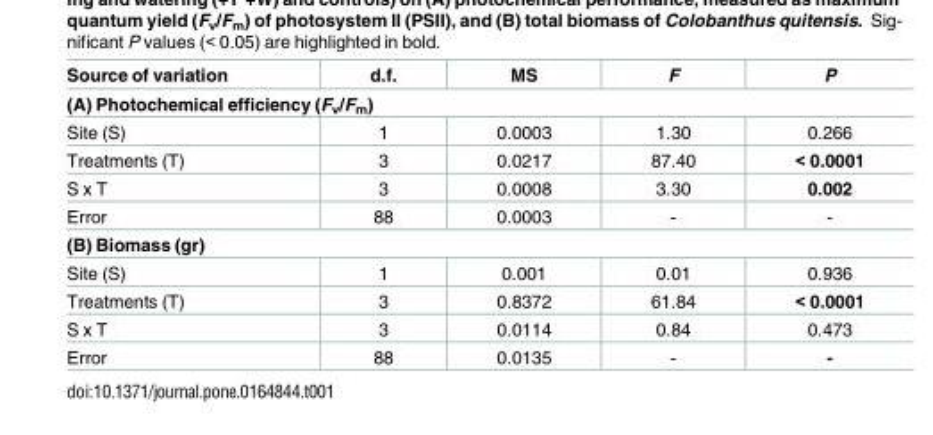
<table><thead><tr><td>Source of variation</td><td>d.f.</td><td>MS</td><td>F</td><td>P</td></tr></thead><tbody><tr><td colspan="5">(A) Photochemical efficiency (F<sub>v</sub>/F<sub>m</sub>)</td></tr><tr><td>Site (S)</td><td>1</td><td>0.0003</td><td>1.30</td><td>0.266</td></tr><tr><td>Treatments (T)</td><td>3</td><td>0.0217</td><td>87.40</td><td>&lt; 0.0001</td></tr><tr><td>S x T</td><td>3</td><td>0.0008</td><td>3.30</td><td>0.002</td></tr><tr><td>Error</td><td>88</td><td>0.0003</td><td>-</td><td>-</td></tr><tr><td colspan="5">(B) Biomass (gr)</td></tr><tr><td>Site (S)</td><td>1</td><td>0.001</td><td>0.01</td><td>0.936</td></tr><tr><td>Treatments (T)</td><td>3</td><td>0.8372</td><td>61.84</td><td>&lt; 0.0001</td></tr><tr><td>S x T</td><td>3</td><td>0.0114</td><td>0.84</td><td>0.473</td></tr><tr><td>Error</td><td>88</td><td>0.0135</td><td>-</td><td>-</td></tr></tbody></table>